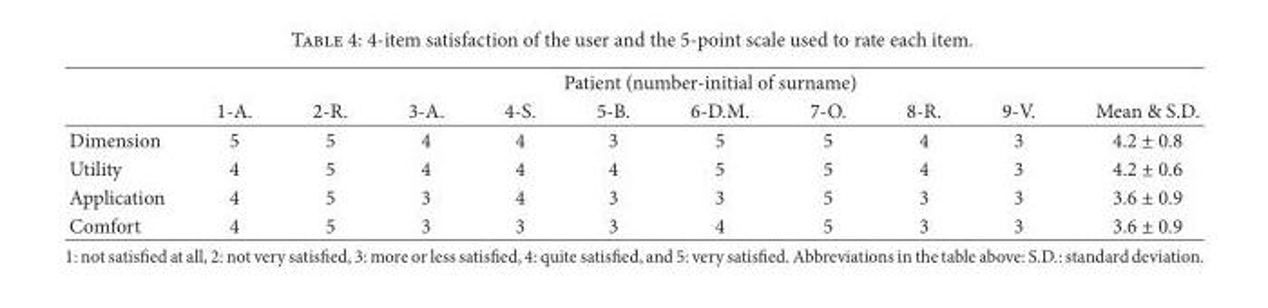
<table><thead><tr><td rowspan="2"></td><td colspan="10">Patient (number-initial of surname)</td></tr><tr><td>1-A.</td><td>2-R.</td><td>3-A.</td><td>4-S.</td><td>5-B.</td><td>6-D.M.</td><td>7-O.</td><td>8-R.</td><td>9-V.</td><td>Mean &amp; S.D.</td></tr></thead><tbody><tr><td>Dimension</td><td>5</td><td>5</td><td>4</td><td>4</td><td>3</td><td>5</td><td>5</td><td>4</td><td>3</td><td>4.2 ± 0.8</td></tr><tr><td>Utility</td><td>4</td><td>5</td><td>4</td><td>4</td><td>4</td><td>5</td><td>5</td><td>4</td><td>3</td><td>4.2 ± 0.6</td></tr><tr><td>Application</td><td>4</td><td>5</td><td>3</td><td>4</td><td>3</td><td>3</td><td>5</td><td>3</td><td>3</td><td>3.6 ± 0.9</td></tr><tr><td>Comfort</td><td>4</td><td>5</td><td>3</td><td>3</td><td>3</td><td>4</td><td>5</td><td>3</td><td>3</td><td>3.6 ± 0.9</td></tr></tbody></table>